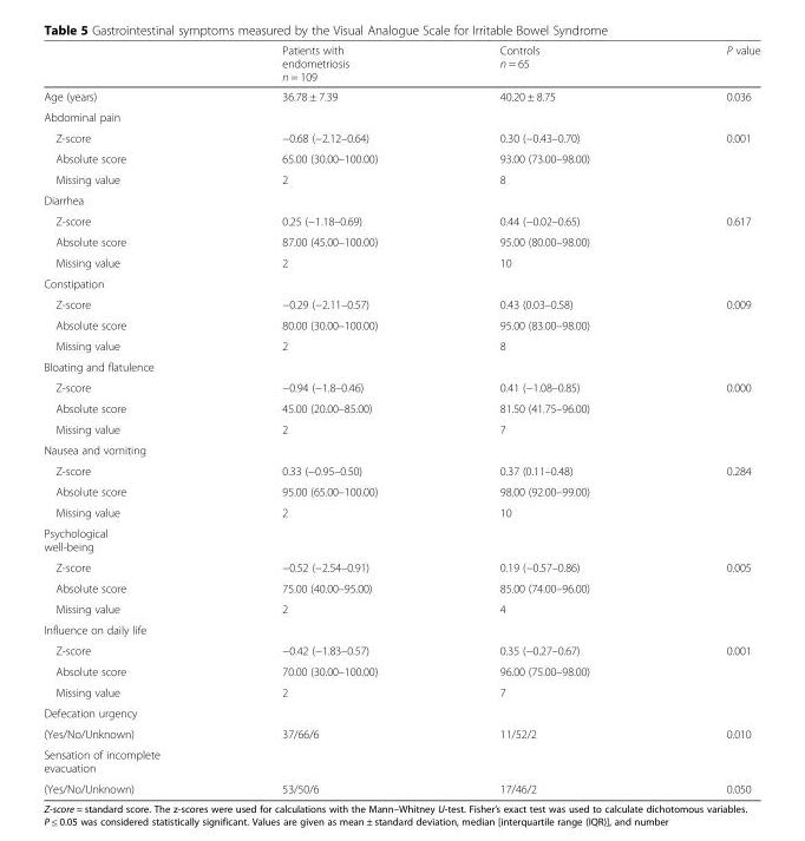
<table><thead><tr><td></td><td>Patients with endometriosis n = 109</td><td>Controls n = 65</td><td>P value</td></tr></thead><tbody><tr><td>Age (years)</td><td>36.78 ± 7.39</td><td>40.20 ± 8.75</td><td>0.036</td></tr><tr><td colspan="4">Abdominal pain</td></tr><tr><td>Z-score</td><td>−0.68 (−2.12–0.64)</td><td>0.30 (−0.43–0.70)</td><td>0.001</td></tr><tr><td>Absolute score</td><td>65.00 (30.00–100.00)</td><td>93.00 (73.00–98.00)</td><td></td></tr><tr><td>Missing value</td><td>2</td><td>8</td><td></td></tr><tr><td colspan="4">Diarrhea</td></tr><tr><td>Z-score</td><td>0.25 (−1.18–0.69)</td><td>0.44 (−0.02–0.65)</td><td>0.617</td></tr><tr><td>Absolute score</td><td>87.00 (45.00–100.00)</td><td>95.00 (80.00–98.00)</td><td></td></tr><tr><td>Missing value</td><td>2</td><td>10</td><td></td></tr><tr><td colspan="4">Constipation</td></tr><tr><td>Z-score</td><td>−0.29 (−2.11–0.57)</td><td>0.43 (0.03–0.58)</td><td>0.009</td></tr><tr><td>Absolute score</td><td>80.00 (30.00–100.00)</td><td>95.00 (83.00–98.00)</td><td></td></tr><tr><td>Missing value</td><td>2</td><td>8</td><td></td></tr><tr><td colspan="4">Bloating and flatulence</td></tr><tr><td>Z-score</td><td>−0.94 (−1.8–0.46)</td><td>0.41 (−1.08–0.85)</td><td>0.000</td></tr><tr><td>Absolute score</td><td>45.00 (20.00–85.00)</td><td>81.50 (41.75–96.00)</td><td></td></tr><tr><td>Missing value</td><td>2</td><td>7</td><td></td></tr><tr><td colspan="4">Nausea and vomiting</td></tr><tr><td>Z-score</td><td>0.33 (−0.95–0.50)</td><td>0.37 (0.11–0.48)</td><td>0.284</td></tr><tr><td>Absolute score</td><td>95.00 (65.00–100.00)</td><td>98.00 (92.00–99.00)</td><td></td></tr><tr><td>Missing value</td><td>2</td><td>10</td><td></td></tr><tr><td colspan="4">Psychological well-being</td></tr><tr><td>Z-score</td><td>−0.52 (−2.54–0.91)</td><td>0.19 (−0.57–0.86)</td><td>0.005</td></tr><tr><td>Absolute score</td><td>75.00 (40.00–95.00)</td><td>85.00 (74.00–96.00)</td><td></td></tr><tr><td>Missing value</td><td>2</td><td>4</td><td></td></tr><tr><td colspan="4">Influence on daily life</td></tr><tr><td>Z-score</td><td>−0.42 (−1.83–0.57)</td><td>0.35 (−0.27–0.67)</td><td>0.001</td></tr><tr><td>Absolute score</td><td>70.00 (30.00–100.00)</td><td>96.00 (75.00–98.00)</td><td></td></tr><tr><td>Missing value</td><td>2</td><td>7</td><td></td></tr><tr><td colspan="4">Defecation urgency</td></tr><tr><td>(Yes/No/Unknown)</td><td>37/66/6</td><td>11/52/2</td><td>0.010</td></tr><tr><td colspan="4">Sensation of incomplete evacuation</td></tr><tr><td>(Yes/No/Unknown)</td><td>53/50/6</td><td>17/46/2</td><td>0.050</td></tr></tbody></table>